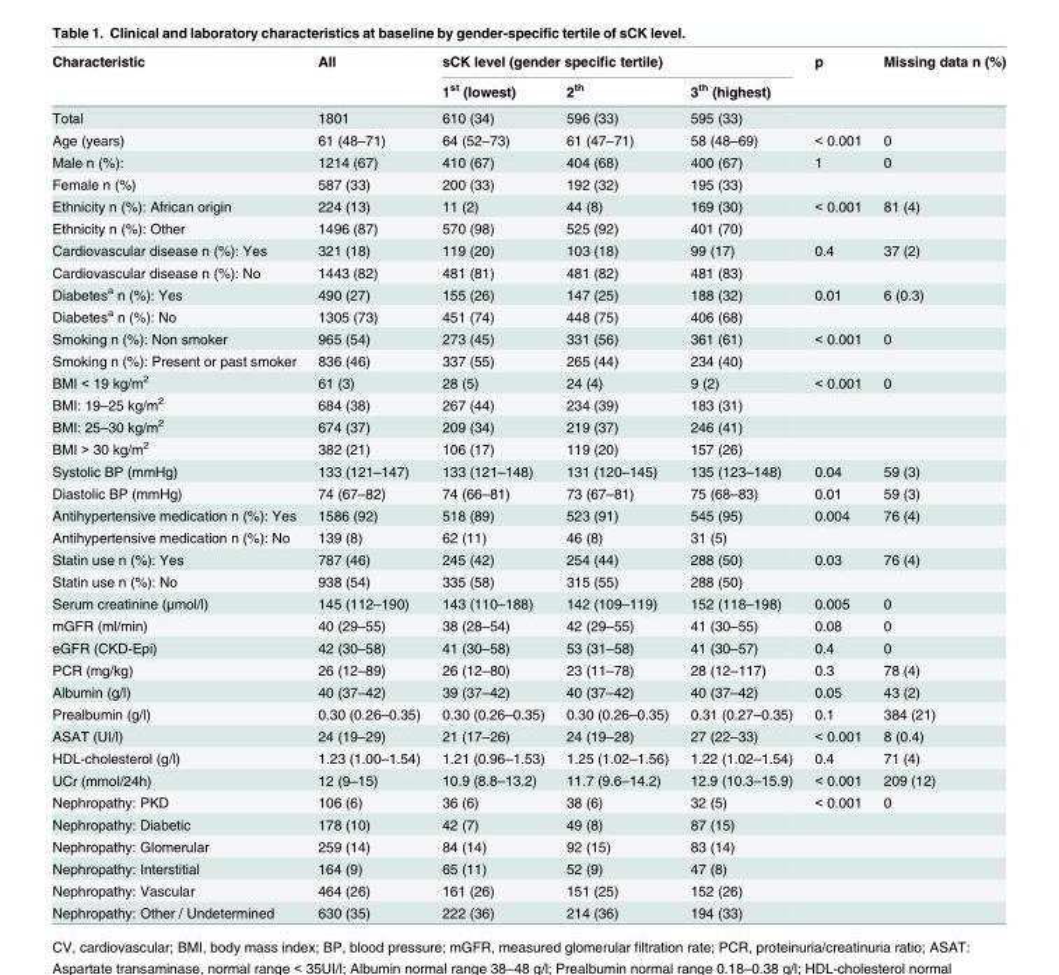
<table><thead><tr><td rowspan="2">Characteristic</td><td rowspan="2">All</td><td colspan="3">sCK level (gender specific tertile)</td><td rowspan="2">p</td><td rowspan="2">Missing data n (%)</td></tr><tr><td>1<sup>st</sup> (lowest)</td><td>2<sup>th</sup></td><td>3<sup>th</sup> (highest)</td></tr></thead><tbody><tr><td>Total</td><td>1801</td><td>610 (34)</td><td>596 (33)</td><td>595 (33)</td><td></td><td></td></tr><tr><td>Age (years)</td><td>61 (48–71)</td><td>64 (52–73)</td><td>61 (47–71)</td><td>58 (48–69)</td><td>&lt; 0.001</td><td>0</td></tr><tr><td>Male n (%):</td><td>1214 (67)</td><td>410 (67)</td><td>404 (68)</td><td>400 (67)</td><td>1</td><td>0</td></tr><tr><td>Female n (%)</td><td>587 (33)</td><td>200 (33)</td><td>192 (32)</td><td>195 (33)</td><td></td><td></td></tr><tr><td>Ethnicity n (%): African origin</td><td>224 (13)</td><td>11 (2)</td><td>44 (8)</td><td>169 (30)</td><td>&lt; 0.001</td><td>81 (4)</td></tr><tr><td>Ethnicity n (%): Other</td><td>1496 (87)</td><td>570 (98)</td><td>525 (92)</td><td>401 (70)</td><td></td><td></td></tr><tr><td>Cardiovascular disease n (%): Yes</td><td>321 (18)</td><td>119 (20)</td><td>103 (18)</td><td>99 (17)</td><td>0.4</td><td>37 (2)</td></tr><tr><td>Cardiovascular disease n (%): No</td><td>1443 (82)</td><td>481 (81)</td><td>481 (82)</td><td>481 (83)</td><td></td><td></td></tr><tr><td>Diabetes<sup>a</sup> n (%): Yes</td><td>490 (27)</td><td>155 (26)</td><td>147 (25)</td><td>188 (32)</td><td>0.01</td><td>6 (0.3)</td></tr><tr><td>Diabetes<sup>a</sup> n (%): No</td><td>1305 (73)</td><td>451 (74)</td><td>448 (75)</td><td>406 (68)</td><td></td><td></td></tr><tr><td>Smoking n (%): Non smoker</td><td>965 (54)</td><td>273 (45)</td><td>331 (56)</td><td>361 (61)</td><td>&lt; 0.001</td><td>0</td></tr><tr><td>Smoking n (%): Present or past smoker</td><td>836 (46)</td><td>337 (55)</td><td>265 (44)</td><td>234 (40)</td><td></td><td></td></tr><tr><td>BMI &lt; 19 kg/m<sup>2</sup></td><td>61 (3)</td><td>28 (5)</td><td>24 (4)</td><td>9 (2)</td><td>&lt; 0.001</td><td>0</td></tr><tr><td>BMI: 19–25 kg/m<sup>2</sup></td><td>684 (38)</td><td>267 (44)</td><td>234 (39)</td><td>183 (31)</td><td></td><td></td></tr><tr><td>BMI: 25–30 kg/m<sup>2</sup></td><td>674 (37)</td><td>209 (34)</td><td>219 (37)</td><td>246 (41)</td><td></td><td></td></tr><tr><td>BMI &gt; 30 kg/m<sup>2</sup></td><td>382 (21)</td><td>106 (17)</td><td>119 (20)</td><td>157 (26)</td><td></td><td></td></tr><tr><td>Systolic BP (mmHg)</td><td>133 (121–147)</td><td>133 (121–148)</td><td>131 (120–145)</td><td>135 (123–148)</td><td>0.04</td><td>59 (3)</td></tr><tr><td>Diastolic BP (mmHg)</td><td>74 (67–82)</td><td>74 (66–81)</td><td>73 (67–81)</td><td>75 (68–83)</td><td>0.01</td><td>59 (3)</td></tr><tr><td>Antihypertensive medication n (%): Yes</td><td>1586 (92)</td><td>518 (89)</td><td>523 (91)</td><td>545 (95)</td><td>0.004</td><td>76 (4)</td></tr><tr><td>Antihypertensive medication n (%): No</td><td>139 (8)</td><td>62 (11)</td><td>46 (8)</td><td>31 (5)</td><td></td><td></td></tr><tr><td>Statin use n (%): Yes</td><td>787 (46)</td><td>245 (42)</td><td>254 (44)</td><td>288 (50)</td><td>0.03</td><td>76 (4)</td></tr><tr><td>Statin use n (%): No</td><td>938 (54)</td><td>335 (58)</td><td>315 (55)</td><td>288 (50)</td><td></td><td></td></tr><tr><td>Serum creatinine (μmol/l)</td><td>145 (112–190)</td><td>143 (110–188)</td><td>142 (109–119)</td><td>152 (118–198)</td><td>0.005</td><td>0</td></tr><tr><td>mGFR (ml/min)</td><td>40 (29–55)</td><td>38 (28–54)</td><td>42 (29–55)</td><td>41 (30–55)</td><td>0.08</td><td>0</td></tr><tr><td>eGFR (CKD-Epi)</td><td>42 (30–58)</td><td>41 (30–58)</td><td>53 (31–58)</td><td>41 (30–57)</td><td>0.4</td><td>0</td></tr><tr><td>PCR (mg/kg)</td><td>26 (12–89)</td><td>26 (12–80)</td><td>23 (11–78)</td><td>28 (12–117)</td><td>0.3</td><td>78 (4)</td></tr><tr><td>Albumin (g/l)</td><td>40 (37–42)</td><td>39 (37–42)</td><td>40 (37–42)</td><td>40 (37–42)</td><td>0.05</td><td>43 (2)</td></tr><tr><td>Prealbumin (g/l)</td><td>0.30 (0.26–0.35)</td><td>0.30 (0.26–0.35)</td><td>0.30 (0.26–0.35)</td><td>0.31 (0.27–0.35)</td><td>0.1</td><td>384 (21)</td></tr><tr><td>ASAT (UI/l)</td><td>24 (19–29)</td><td>21 (17–26)</td><td>24 (19–28)</td><td>27 (22–33)</td><td>&lt; 0.001</td><td>8 (0.4)</td></tr><tr><td>HDL-cholesterol (g/l)</td><td>1.23 (1.00–1.54)</td><td>1.21 (0.96–1.53)</td><td>1.25 (1.02–1.56)</td><td>1.22 (1.02–1.54)</td><td>0.4</td><td>71 (4)</td></tr><tr><td>UCr (mmol/24h)</td><td>12 (9–15)</td><td>10.9 (8.8–13.2)</td><td>11.7 (9.6–14.2)</td><td>12.9 (10.3–15.9)</td><td>&lt; 0.001</td><td>209 (12)</td></tr><tr><td>Nephropathy: PKD</td><td>106 (6)</td><td>36 (6)</td><td>38 (6)</td><td>32 (5)</td><td>&lt; 0.001</td><td>0</td></tr><tr><td>Nephropathy: Diabetic</td><td>178 (10)</td><td>42 (7)</td><td>49 (8)</td><td>87 (15)</td><td></td><td></td></tr><tr><td>Nephropathy: Glomerular</td><td>259 (14)</td><td>84 (14)</td><td>92 (15)</td><td>83 (14)</td><td></td><td></td></tr><tr><td>Nephropathy: Interstitial</td><td>164 (9)</td><td>65 (11)</td><td>52 (9)</td><td>47 (8)</td><td></td><td></td></tr><tr><td>Nephropathy: Vascular</td><td>464 (26)</td><td>161 (26)</td><td>151 (25)</td><td>152 (26)</td><td></td><td></td></tr><tr><td>Nephropathy: Other / Undetermined</td><td>630 (35)</td><td>222 (36)</td><td>214 (36)</td><td>194 (33)</td><td></td><td></td></tr></tbody></table>